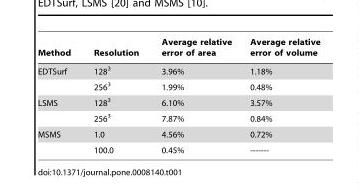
<table><thead><tr><td>Method</td><td>Resolution</td><td>Average relative error of area</td><td>Average relative error of volume</td></tr></thead><tbody><tr><td rowspan="2">EDTSurf</td><td>128<sup>3</sup></td><td>3.96%</td><td>1.18%</td></tr><tr><td>256<sup>3</sup></td><td>1.99%</td><td>0.48%</td></tr><tr><td rowspan="2">LSMS</td><td>128<sup>3</sup></td><td>6.10%</td><td>3.57%</td></tr><tr><td>256<sup>3</sup></td><td>7.87%</td><td>0.84%</td></tr><tr><td rowspan="2">MSMS</td><td>1.0</td><td>4.56%</td><td>0.72%</td></tr><tr><td>100.0</td><td>0.45%</td><td>-------</td></tr></tbody></table>